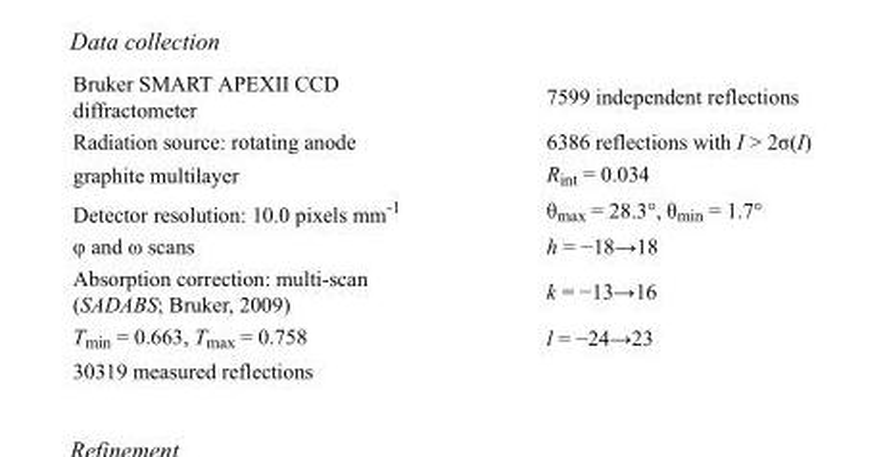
<table><tbody><tr><td>Bruker SMART APEXII CCD diffractometer</td><td>7599 independent reflections</td></tr><tr><td>Radiation source: rotating anode</td><td>6386 reflections with I &gt; 2σ(I)</td></tr><tr><td>graphite multilayer</td><td>R<sub>int</sub> = 0.034</td></tr><tr><td>Detector resolution: 10.0 pixels mm<sup>-1</sup></td><td>θ<sub>max</sub> = 28.3°, θ<sub>min</sub> = 1.7°</td></tr><tr><td>φ and ω scans</td><td>h = −18→18</td></tr><tr><td>Absorption correction: multi-scan (SADABS; Bruker, 2009)</td><td>k = −13→16</td></tr><tr><td>T<sub>min</sub> = 0.663, T<sub>max</sub> = 0.758</td><td>l = −24→23</td></tr><tr><td>30319 measured reflections</td><td></td></tr></tbody></table>